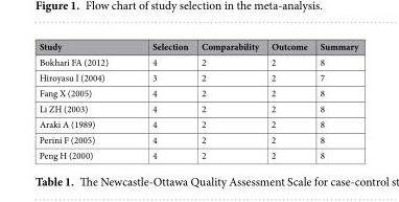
<table><thead><tr><td>Study</td><td>Selection</td><td>Comparability</td><td>Outcome</td><td>Summary</td></tr></thead><tbody><tr><td>Bokhari FA (2012)</td><td>4</td><td>2</td><td>2</td><td>8</td></tr><tr><td>Hiroyasu I (2004)</td><td>3</td><td>2</td><td>2</td><td>7</td></tr><tr><td>Fang X (2005)</td><td>4</td><td>2</td><td>2</td><td>8</td></tr><tr><td>Li ZH (2003)</td><td>4</td><td>2</td><td>2</td><td>8</td></tr><tr><td>Araki A (1989)</td><td>4</td><td>2</td><td>2</td><td>8</td></tr><tr><td>Perini F (2005)</td><td>4</td><td>2</td><td>2</td><td>8</td></tr><tr><td>Peng H (2000)</td><td>4</td><td>2</td><td>2</td><td>8</td></tr></tbody></table>